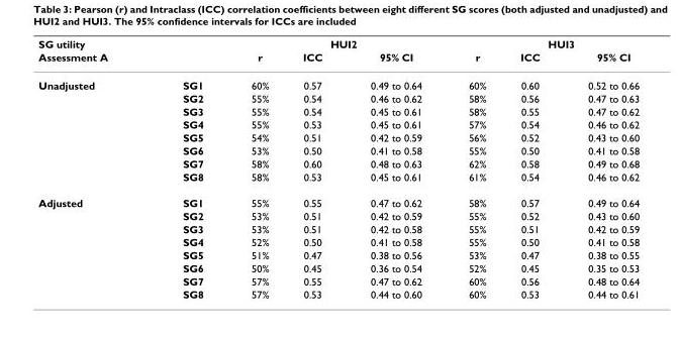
<table><thead><tr><td rowspan="2">SG utility Assessment A</td><td rowspan="2"></td><td colspan="3">HUI2</td><td colspan="3">HUI3</td></tr><tr><td>r</td><td>ICC</td><td>95% CI</td><td>r</td><td>ICC</td><td>95% CI</td></tr></thead><tbody><tr><td rowspan="8">Unadjusted</td><td>SG1</td><td>60%</td><td>0.57</td><td>0.49 to 0.64</td><td>60%</td><td>0.60</td><td>0.52 to 0.66</td></tr><tr><td>SG2</td><td>55%</td><td>0.54</td><td>0.46 to 0.62</td><td>58%</td><td>0.56</td><td>0.47 to 0.63</td></tr><tr><td>SG3</td><td>55%</td><td>0.54</td><td>0.45 to 0.61</td><td>58%</td><td>0.55</td><td>0.47 to 0.62</td></tr><tr><td>SG4</td><td>55%</td><td>0.53</td><td>0.45 to 0.61</td><td>57%</td><td>0.54</td><td>0.46 to 0.62</td></tr><tr><td>SG5</td><td>54%</td><td>0.51</td><td>0.42 to 0.59</td><td>56%</td><td>0.52</td><td>0.43 to 0.60</td></tr><tr><td>SG6</td><td>53%</td><td>0.50</td><td>0.41 to 0.58</td><td>55%</td><td>0.50</td><td>0.41 to 0.58</td></tr><tr><td>SG7</td><td>58%</td><td>0.60</td><td>0.48 to 0.63</td><td>62%</td><td>0.58</td><td>0.49 to 0.68</td></tr><tr><td>SG8</td><td>58%</td><td>0.53</td><td>0.45 to 0.61</td><td>61%</td><td>0.54</td><td>0.46 to 0.62</td></tr><tr><td rowspan="8">Adjusted</td><td>SG1</td><td>55%</td><td>0.55</td><td>0.47 to 0.62</td><td>58%</td><td>0.57</td><td>0.49 to 0.64</td></tr><tr><td>SG2</td><td>53%</td><td>0.51</td><td>0.42 to 0.59</td><td>55%</td><td>0.52</td><td>0.43 to 0.60</td></tr><tr><td>SG3</td><td>53%</td><td>0.51</td><td>0.42 to 0.58</td><td>55%</td><td>0.51</td><td>0.42 to 0.59</td></tr><tr><td>SG4</td><td>52%</td><td>0.50</td><td>0.41 to 0.58</td><td>55%</td><td>0.50</td><td>0.41 to 0.58</td></tr><tr><td>SG5</td><td>51%</td><td>0.47</td><td>0.38 to 0.56</td><td>53%</td><td>0.47</td><td>0.38 to 0.55</td></tr><tr><td>SG6</td><td>50%</td><td>0.45</td><td>0.36 to 0.54</td><td>52%</td><td>0.45</td><td>0.35 to 0.53</td></tr><tr><td>SG7</td><td>57%</td><td>0.55</td><td>0.47 to 0.62</td><td>60%</td><td>0.56</td><td>0.48 to 0.64</td></tr><tr><td>SG8</td><td>57%</td><td>0.53</td><td>0.44 to 0.60</td><td>60%</td><td>0.53</td><td>0.44 to 0.61</td></tr></tbody></table>